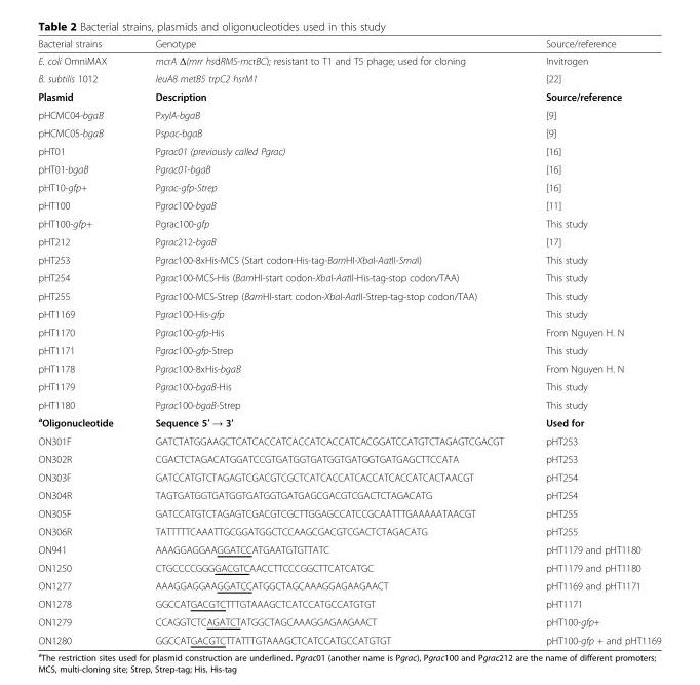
<table><thead><tr><td>Bacterial strains</td><td>Genotype</td><td>Source/reference</td></tr></thead><tbody><tr><td>E. coli OmniMAX</td><td>mcrA Δ(mrr hsdRMS-mcrBC); resistant to T1 and T5 phage; used for cloning</td><td>Invitrogen</td></tr><tr><td>B. subtilis 1012</td><td>leuA8 metB5 trpC2 hsrM1</td><td>[22]</td></tr><tr><td>Plasmid</td><td>Description</td><td>Source/reference</td></tr><tr><td>pHCMC04-bgaB</td><td>PxylA-bgaB</td><td>[9]</td></tr><tr><td>pHCMC05-bgaB</td><td>Pspac-bgaB</td><td>[9]</td></tr><tr><td>pHT01</td><td>Pgrac01 (previously called Pgrac)</td><td>[16]</td></tr><tr><td>pHT01-bgaB</td><td>Pgrac01-bgaB</td><td>[16]</td></tr><tr><td>pHT10-gfp+</td><td>Pgrac-gfp-Strep</td><td>[16]</td></tr><tr><td>pHT100</td><td>Pgrac100-bgaB</td><td>[11]</td></tr><tr><td>pHT100-gfp+</td><td>Pgrac100-gfp</td><td>This study</td></tr><tr><td>pHT212</td><td>Pgrac212-bgaB</td><td>[17]</td></tr><tr><td>pHT253</td><td>Pgrac100-8xHis-MCS (Start codon-His-tag-BamHI-XbaI-AatII-SmaI)</td><td>This study</td></tr><tr><td>pHT254</td><td>Pgrac100-MCS-His (BamHI-start codon-XbaI-AatII-His-tag-stop codon/TAA)</td><td>This study</td></tr><tr><td>pHT255</td><td>Pgrac100-MCS-Strep (BamHI-start codon-XbaI-AatII-Strep-tag-stop codon/TAA)</td><td>This study</td></tr><tr><td>pHT1169</td><td>Pgrac100-His-gfp</td><td>This study</td></tr><tr><td>pHT1170</td><td>Pgrac100-gfp-His</td><td>From Nguyen H. N</td></tr><tr><td>pHT1171</td><td>Pgrac100-gfp-Strep</td><td>This study</td></tr><tr><td>pHT1178</td><td>Pgrac100-8xHis-bgaB</td><td>From Nguyen H. N</td></tr><tr><td>pHT1179</td><td>Pgrac100-bgaB-His</td><td>This study</td></tr><tr><td>pHT1180</td><td>Pgrac100-bgaB-Strep</td><td>This study</td></tr><tr><td><sup>a</sup>Oligonucleotide</td><td>Sequence 5′ → 3′</td><td>Used for</td></tr><tr><td>ON301F</td><td>GATCTATGGAAGCTCATCACCATCACCATCACCATCACGGATCCATGTCTAGAGTCGACGT</td><td>pHT253</td></tr><tr><td>ON302R</td><td>CGACTCTAGACATGGATCCGTGATGGTGATGGTGATGGTGATGAGCTTCCATA</td><td>pHT253</td></tr><tr><td>ON303F</td><td>GATCCATGTCTAGAGTCGACGTCGCTCATCACCATCACCATCACCATCACTAACGT</td><td>pHT254</td></tr><tr><td>ON304R</td><td>TAGTGATGGTGATGGTGATGGTGATGAGCGACGTCGACTCTAGACATG</td><td>pHT254</td></tr><tr><td>ON305F</td><td>GATCCATGTCTAGAGTCGACGTCGCTTGGAGCCATCCGCAATTTGAAAAATAACGT</td><td>pHT255</td></tr><tr><td>ON306R</td><td>TATTTTTCAAATTGCGGATGGCTCCAAGCGACGTCGACTCTAGACATG</td><td>pHT255</td></tr><tr><td>ON941</td><td>AAAGGAGGAAGGATCCATGAATGTGTTATC</td><td>pHT1179 and pHT1180</td></tr><tr><td>ON1250</td><td>CTGCCCCGGGGACGTCAACCTTCCCGGCTTCATCATGC</td><td>pHT1179 and pHT1180</td></tr><tr><td>ON1277</td><td>AAAGGAGGAAGGATCCATGGCTAGCAAAGGAGAAGAACT</td><td>pHT1169 and pHT1171</td></tr><tr><td>ON1278</td><td>GGCCATGACGTCTTTGTAAAGCTCATCCATGCCATGTGT</td><td>pHT1171</td></tr><tr><td>ON1279</td><td>CCAGGTCTCAGATCTATGGCTAGCAAAGGAGAAGAACT</td><td>pHT100-gfp+</td></tr><tr><td>ON1280</td><td>GGCCATGACGTCTTATTTGTAAAGCTCATCCATGCCATGTGT</td><td>pHT100-gfp + and pHT1169</td></tr></tbody></table>